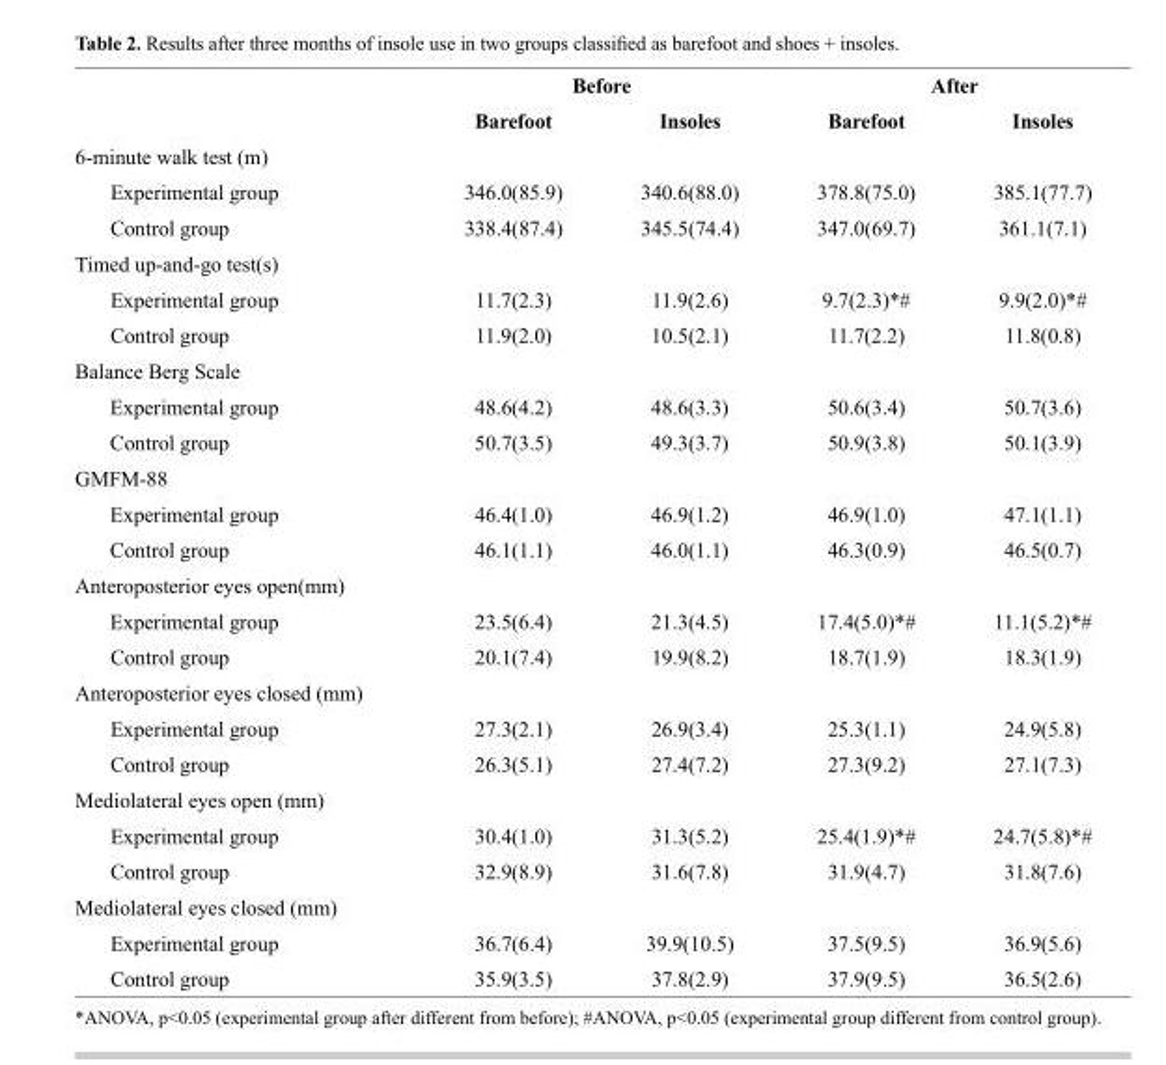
<table><thead><tr><td rowspan="2"></td><td colspan="2">Before</td><td colspan="2">After</td></tr><tr><td>Barefoot</td><td>Insoles</td><td>Barefoot</td><td>Insoles</td></tr></thead><tbody><tr><td colspan="5">6-minute walk test (m)</td></tr><tr><td>Experimental group</td><td>346.0(85.9)</td><td>340.6(88.0)</td><td>378.8(75.0)</td><td>385.1(77.7)</td></tr><tr><td>Control group</td><td>338.4(87.4)</td><td>345.5(74.4)</td><td>347.0(69.7)</td><td>361.1(7.1)</td></tr><tr><td colspan="5">Timed up-and-go test(s)</td></tr><tr><td>Experimental group</td><td>11.7(2.3)</td><td>11.9(2.6)</td><td>9.7(2.3)*#</td><td>9.9(2.0)<sup>*#</sup></td></tr><tr><td>Control group</td><td>11.9(2.0)</td><td>10.5(2.1)</td><td>11.7(2.2)</td><td>11.8(0.8)</td></tr><tr><td colspan="5">Balance Berg Scale</td></tr><tr><td>Experimental group</td><td>48.6(4.2)</td><td>48.6(3.3)</td><td>50.6(3.4)</td><td>50.7(3.6)</td></tr><tr><td>Control group</td><td>50.7(3.5)</td><td>49.3(3.7)</td><td>50.9(3.8)</td><td>50.1(3.9)</td></tr><tr><td colspan="5">GMFM-88</td></tr><tr><td>Experimental group</td><td>46.4(1.0)</td><td>46.9(1.2)</td><td>46.9(1.0)</td><td>47.1(1.1)</td></tr><tr><td>Control group</td><td>46.1(1.1)</td><td>46.0(1.1)</td><td>46.3(0.9)</td><td>46.5(0.7)</td></tr><tr><td colspan="5">Anteroposterior eyes open(mm)</td></tr><tr><td>Experimental group</td><td>23.5(6.4)</td><td>21.3(4.5)</td><td>17.4(5.0)<sup>*#</sup></td><td>11.1(5.2)<sup>*#</sup></td></tr><tr><td>Control group</td><td>20.1(7.4)</td><td>19.9(8.2)</td><td>18.7(1.9)</td><td>18.3(1.9)</td></tr><tr><td colspan="5">Anteroposterior eyes closed (mm)</td></tr><tr><td>Experimental group</td><td>27.3(2.1)</td><td>26.9(3.4)</td><td>25.3(1.1)</td><td>24.9(5.8)</td></tr><tr><td>Control group</td><td>26.3(5.1)</td><td>27.4(7.2)</td><td>27.3(9.2)</td><td>27.1(7.3)</td></tr><tr><td colspan="5">Mediolateral eyes open (mm)</td></tr><tr><td>Experimental group</td><td>30.4(1.0)</td><td>31.3(5.2)</td><td>25.4(1.9)<sup>*#</sup></td><td>24.7(5.8)<sup>*#</sup></td></tr><tr><td>Control group</td><td>32.9(8.9)</td><td>31.6(7.8)</td><td>31.9(4.7)</td><td>31.8(7.6)</td></tr><tr><td colspan="5">Mediolateral eyes closed (mm)</td></tr><tr><td>Experimental group</td><td>36.7(6.4)</td><td>39.9(10.5)</td><td>37.5(9.5)</td><td>36.9(5.6)</td></tr><tr><td>Control group</td><td>35.9(3.5)</td><td>37.8(2.9)</td><td>37.9(9.5)</td><td>36.5(2.6)</td></tr></tbody></table>